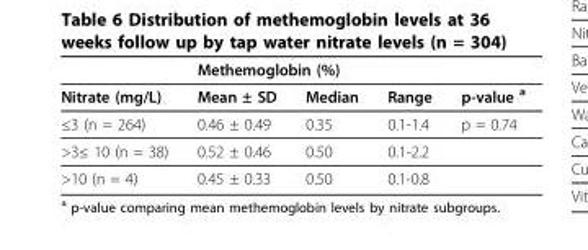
<table><thead><tr><td rowspan="2">Nitrate (mg/L)</td><td colspan="4">Methemoglobin (%)</td></tr><tr><td>Mean ± SD</td><td>Median</td><td>Range</td><td>p-value <sup>a</sup></td></tr></thead><tbody><tr><td>≤3 (n = 264)</td><td>0.46 ± 0.49</td><td>0.35</td><td>0.1-1.4</td><td>p = 0.74</td></tr><tr><td>&gt;3≤ 10 (n = 38)</td><td>0.52 ± 0.46</td><td>0.50</td><td>0.1-2.2</td><td></td></tr><tr><td>&gt;10 (n = 4)</td><td>0.45 ± 0.33</td><td>0.50</td><td>0.1-0.8</td><td></td></tr></tbody></table>